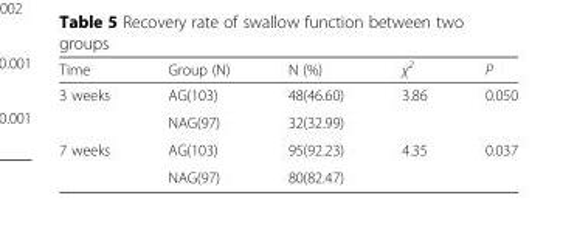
<table><thead><tr><td>Time</td><td>Group (N)</td><td>N (%)</td><td>χ<sup>2</sup></td><td>P</td></tr></thead><tbody><tr><td rowspan="2">3 weeks</td><td>AG(103)</td><td>48(46.60)</td><td>3.86</td><td>0.050</td></tr><tr><td>NAG(97)</td><td>32(32.99)</td><td></td><td></td></tr><tr><td rowspan="2">7 weeks</td><td>AG(103)</td><td>95(92.23)</td><td>4.35</td><td>0.037</td></tr><tr><td>NAG(97)</td><td>80(82.47)</td><td></td><td></td></tr></tbody></table>